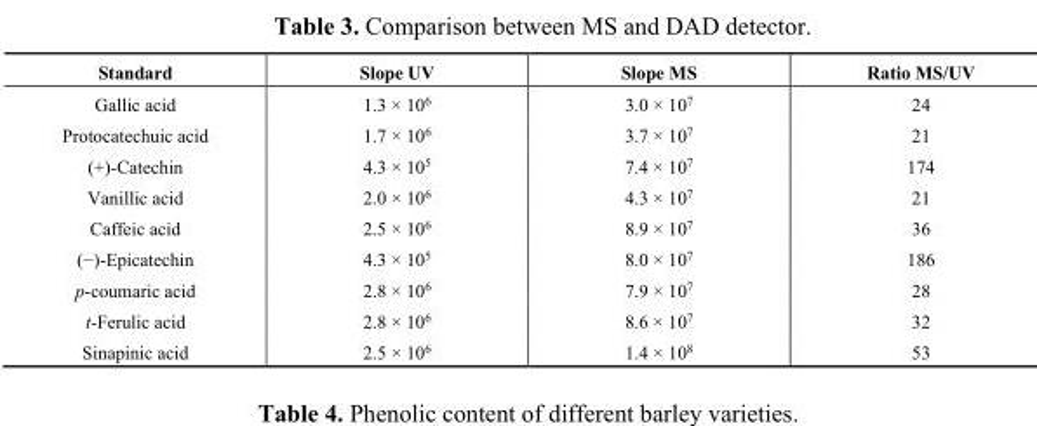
<table><thead><tr><td>Standard</td><td>Slope UV</td><td>Slope MS</td><td>Ratio MS/UV</td></tr></thead><tbody><tr><td>Gallic acid</td><td>1.3 × 10<sup>6</sup></td><td>3.0 × 10<sup>7</sup></td><td>24</td></tr><tr><td>Protocatechuic acid</td><td>1.7 × 10<sup>6</sup></td><td>3.7 × 10<sup>7</sup></td><td>21</td></tr><tr><td>(+)-Catechin</td><td>4.3 × 10<sup>5</sup></td><td>7.4 × 10<sup>7</sup></td><td>174</td></tr><tr><td>Vanillic acid</td><td>2.0 × 10<sup>6</sup></td><td>4.3 × 10<sup>7</sup></td><td>21</td></tr><tr><td>Caffeic acid</td><td>2.5 × 10<sup>6</sup></td><td>8.9 × 10<sup>7</sup></td><td>36</td></tr><tr><td>(−)-Epicatechin</td><td>4.3 × 10<sup>5</sup></td><td>8.0 × 10<sup>7</sup></td><td>186</td></tr><tr><td>p-coumaric acid</td><td>2.8 × 10<sup>6</sup></td><td>7.9 × 10<sup>7</sup></td><td>28</td></tr><tr><td>t-Ferulic acid</td><td>2.8 × 10<sup>6</sup></td><td>8.6 × 10<sup>7</sup></td><td>32</td></tr><tr><td>Sinapinic acid</td><td>2.5 × 10<sup>6</sup></td><td>1.4 × 10<sup>8</sup></td><td>53</td></tr></tbody></table>